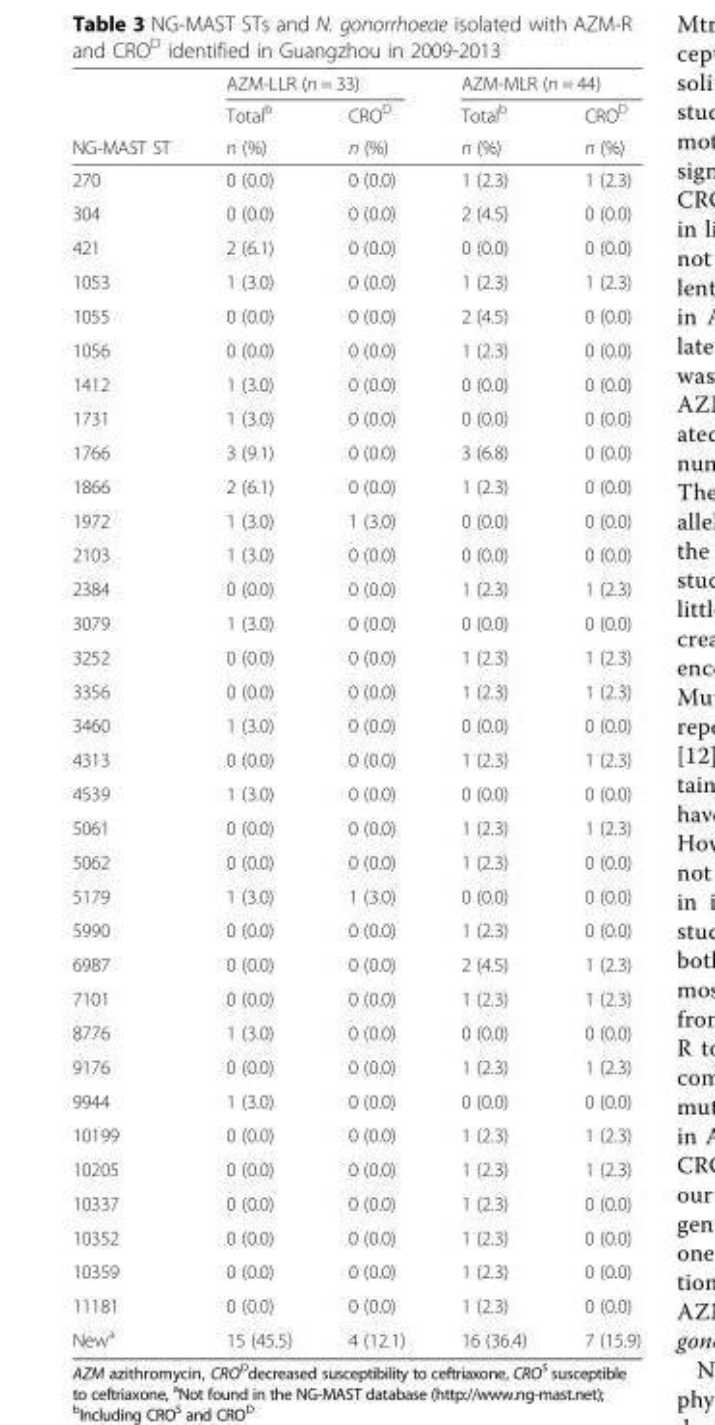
<table><thead><tr><td rowspan="3">NG-MAST ST</td><td colspan="2">AZM-LLR (n = 33)</td><td colspan="2">AZM-MLR (n = 44)</td></tr><tr><td rowspan="2">Total<sup>b</sup> n (%)</td><td rowspan="2">CRO<sup>D</sup> n (%)</td><td rowspan="2">Total<sup>b</sup> n (%)</td><td rowspan="2">CRO<sup>D</sup> n (%)</td></tr><tr></tr></thead><tbody><tr><td>270</td><td>0 (0.0)</td><td>0 (0.0)</td><td>1 (2.3)</td><td>1 (2.3)</td></tr><tr><td>304</td><td>0 (0.0)</td><td>0 (0.0)</td><td>2 (4.5)</td><td>0 (0.0)</td></tr><tr><td>421</td><td>2 (6.1)</td><td>0 (0.0)</td><td>0 (0.0)</td><td>0 (0.0)</td></tr><tr><td>1053</td><td>1 (3.0)</td><td>0 (0.0)</td><td>1 (2.3)</td><td>1 (2.3)</td></tr><tr><td>1055</td><td>0 (0.0)</td><td>0 (0.0)</td><td>2 (4.5)</td><td>0 (0.0)</td></tr><tr><td>1056</td><td>0 (0.0)</td><td>0 (0.0)</td><td>1 (2.3)</td><td>0 (0.0)</td></tr><tr><td>1412</td><td>1 (3.0)</td><td>0 (0.0)</td><td>0 (0.0)</td><td>0 (0.0)</td></tr><tr><td>1731</td><td>1 (3.0)</td><td>0 (0.0)</td><td>0 (0.0)</td><td>0 (0.0)</td></tr><tr><td>1766</td><td>3 (9.1)</td><td>0 (0.0)</td><td>3 (6.8)</td><td>0 (0.0)</td></tr><tr><td>1866</td><td>2 (6.1)</td><td>0 (0.0)</td><td>1 (2.3)</td><td>0 (0.0)</td></tr><tr><td>1972</td><td>1 (3.0)</td><td>1 (3.0)</td><td>0 (0.0)</td><td>0 (0.0)</td></tr><tr><td>2103</td><td>1 (3.0)</td><td>0 (0.0)</td><td>0 (0.0)</td><td>0 (0.0)</td></tr><tr><td>2384</td><td>0 (0.0)</td><td>0 (0.0)</td><td>1 (2.3)</td><td>1 (2.3)</td></tr><tr><td>3079</td><td>1 (3.0)</td><td>0 (0.0)</td><td>0 (0.0)</td><td>0 (0.0)</td></tr><tr><td>3252</td><td>0 (0.0)</td><td>0 (0.0)</td><td>1 (2.3)</td><td>1 (2.3)</td></tr><tr><td>3356</td><td>0 (0.0)</td><td>0 (0.0)</td><td>1 (2.3)</td><td>1 (2.3)</td></tr><tr><td>3460</td><td>1 (3.0)</td><td>0 (0.0)</td><td>0 (0.0)</td><td>0 (0.0)</td></tr><tr><td>4313</td><td>0 (0.0)</td><td>0 (0.0)</td><td>1 (2.3)</td><td>1 (2.3)</td></tr><tr><td>4539</td><td>1 (3.0)</td><td>0 (0.0)</td><td>0 (0.0)</td><td>0 (0.0)</td></tr><tr><td>5061</td><td>0 (0.0)</td><td>0 (0.0)</td><td>1 (2.3)</td><td>1 (2.3)</td></tr><tr><td>5062</td><td>0 (0.0)</td><td>0 (0.0)</td><td>1 (2.3)</td><td>0 (0.0)</td></tr><tr><td>5179</td><td>1 (3.0)</td><td>1 (3.0)</td><td>0 (0.0)</td><td>0 (0.0)</td></tr><tr><td>5990</td><td>0 (0.0)</td><td>0 (0.0)</td><td>1 (2.3)</td><td>0 (0.0)</td></tr><tr><td>6987</td><td>0 (0.0)</td><td>0 (0.0)</td><td>2 (4.5)</td><td>1 (2.3)</td></tr><tr><td>7101</td><td>0 (0.0)</td><td>0 (0.0)</td><td>1 (2.3)</td><td>1 (2.3)</td></tr><tr><td>8776</td><td>1 (3.0)</td><td>0 (0.0)</td><td>0 (0.0)</td><td>0 (0.0)</td></tr><tr><td>9176</td><td>0 (0.0)</td><td>0 (0.0)</td><td>1 (2.3)</td><td>1 (2.3)</td></tr><tr><td>9944</td><td>1 (3.0)</td><td>0 (0.0)</td><td>0 (0.0)</td><td>0 (0.0)</td></tr><tr><td>10199</td><td>0 (0.0)</td><td>0 (0.0)</td><td>1 (2.3)</td><td>1 (2.3)</td></tr><tr><td>10205</td><td>0 (0.0)</td><td>0 (0.0)</td><td>1 (2.3)</td><td>1 (2.3)</td></tr><tr><td>10337</td><td>0 (0.0)</td><td>0 (0.0)</td><td>1 (2.3)</td><td>0 (0.0)</td></tr><tr><td>10352</td><td>0 (0.0)</td><td>0 (0.0)</td><td>1 (2.3)</td><td>0 (0.0)</td></tr><tr><td>10359</td><td>0 (0.0)</td><td>0 (0.0)</td><td>1 (2.3)</td><td>0 (0.0)</td></tr><tr><td>11181</td><td>0 (0.0)</td><td>0 (0.0)</td><td>1 (2.3)</td><td>0 (0.0)</td></tr><tr><td>New<sup>a</sup></td><td>15 (45.5)</td><td>4 (12.1)</td><td>16 (36.4)</td><td>7 (15.9)</td></tr></tbody></table>